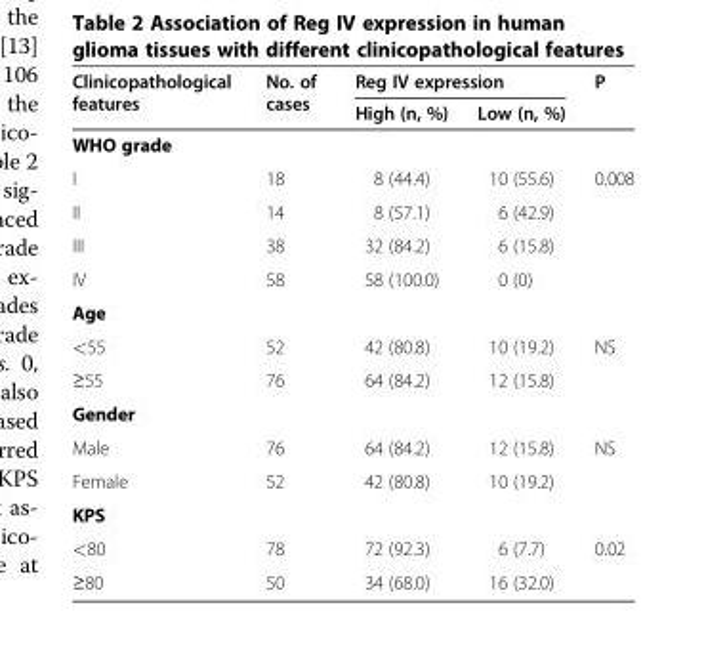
<table><thead><tr><td rowspan="2">Clinicopathological features</td><td rowspan="2">No. of cases</td><td colspan="2">Reg IV expression</td><td rowspan="2">P</td></tr><tr><td>High (n, %)</td><td>Low (n, %)</td></tr></thead><tbody><tr><td colspan="5">WHO grade</td></tr><tr><td>I</td><td>18</td><td>8 (44.4)</td><td>10 (55.6)</td><td rowspan="4">0.008</td></tr><tr><td>II</td><td>14</td><td>8 (57.1)</td><td>6 (42.9)</td></tr><tr><td>III</td><td>38</td><td>32 (84.2)</td><td>6 (15.8)</td></tr><tr><td>IV</td><td>58</td><td>58 (100.0)</td><td>0 (0)</td></tr><tr><td colspan="5">Age</td></tr><tr><td>&lt;55</td><td>52</td><td>42 (80.8)</td><td>10 (19.2)</td><td rowspan="2">NS</td></tr><tr><td>≥55</td><td>76</td><td>64 (84.2)</td><td>12 (15.8)</td></tr><tr><td colspan="5">Gender</td></tr><tr><td>Male</td><td>76</td><td>64 (84.2)</td><td>12 (15.8)</td><td rowspan="2">NS</td></tr><tr><td>Female</td><td>52</td><td>42 (80.8)</td><td>10 (19.2)</td></tr><tr><td colspan="5">KPS</td></tr><tr><td>&lt;80</td><td>78</td><td>72 (92.3)</td><td>6 (7.7)</td><td>0.02</td></tr><tr><td>≥80</td><td>50</td><td>34 (68.0)</td><td>16 (32.0)</td><td></td></tr></tbody></table>